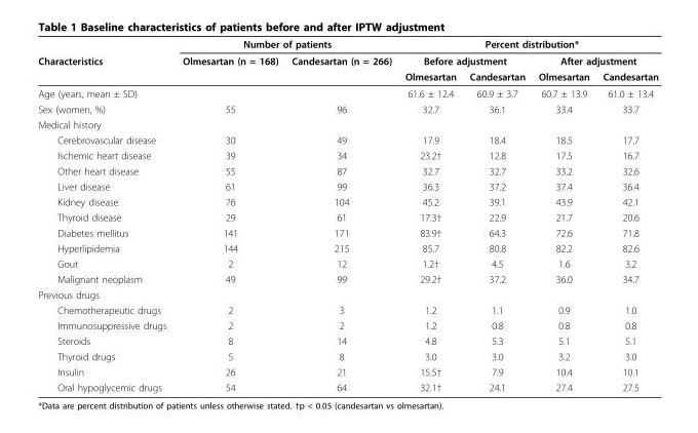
<table><thead><tr><td rowspan="3">Characteristics</td><td colspan="2">Number of patients</td><td colspan="4">Percent distribution*</td></tr><tr><td rowspan="2">Olmesartan (n = 168)</td><td rowspan="2">Candesartan (n = 266)</td><td colspan="2">Before adjustment</td><td colspan="2">After adjustment</td></tr><tr><td>Olmesartan</td><td>Candesartan</td><td>Olmesartan</td><td>Candesartan</td></tr></thead><tbody><tr><td>Age (years, mean ± SD)</td><td></td><td></td><td>61.6 ± 12.4</td><td>60.9 ± 3.7</td><td>60.7 ± 13.9</td><td>61.0 ± 13.4</td></tr><tr><td>Sex (women, %)</td><td>55</td><td>96</td><td>32.7</td><td>36.1</td><td>33.4</td><td>33.7</td></tr><tr><td colspan="7">Medical history</td></tr><tr><td>Cerebrovascular disease</td><td>30</td><td>49</td><td>17.9</td><td>18.4</td><td>18.5</td><td>17.7</td></tr><tr><td>Ischemic heart disease</td><td>39</td><td>34</td><td>23.2†</td><td>12.8</td><td>17.5</td><td>16.7</td></tr><tr><td>Other heart disease</td><td>55</td><td>87</td><td>32.7</td><td>32.7</td><td>33.2</td><td>32.6</td></tr><tr><td>Liver disease</td><td>61</td><td>99</td><td>36.3</td><td>37.2</td><td>37.4</td><td>36.4</td></tr><tr><td>Kidney disease</td><td>76</td><td>104</td><td>45.2</td><td>39.1</td><td>43.9</td><td>42.1</td></tr><tr><td>Thyroid disease</td><td>29</td><td>61</td><td>17.3†</td><td>22.9</td><td>21.7</td><td>20.6</td></tr><tr><td>Diabetes mellitus</td><td>141</td><td>171</td><td>83.9†</td><td>64.3</td><td>72.6</td><td>71.8</td></tr><tr><td>Hyperlipidemia</td><td>144</td><td>215</td><td>85.7</td><td>80.8</td><td>82.2</td><td>82.6</td></tr><tr><td>Gout</td><td>2</td><td>12</td><td>1.2†</td><td>4.5</td><td>1.6</td><td>3.2</td></tr><tr><td>Malignant neoplasm</td><td>49</td><td>99</td><td>29.2†</td><td>37.2</td><td>36.0</td><td>34.7</td></tr><tr><td colspan="7">Previous drugs</td></tr><tr><td>Chemotherapeutic drugs</td><td>2</td><td>3</td><td>1.2</td><td>1.1</td><td>0.9</td><td>1.0</td></tr><tr><td>Immunosuppressive drugs</td><td>2</td><td>2</td><td>1.2</td><td>0.8</td><td>0.8</td><td>0.8</td></tr><tr><td>Steroids</td><td>8</td><td>14</td><td>4.8</td><td>5.3</td><td>5.1</td><td>5.1</td></tr><tr><td>Thyroid drugs</td><td>5</td><td>8</td><td>3.0</td><td>3.0</td><td>3.2</td><td>3.0</td></tr><tr><td>Insulin</td><td>26</td><td>21</td><td>15.5†</td><td>7.9</td><td>10.4</td><td>10.1</td></tr><tr><td>Oral hypoglycemic drugs</td><td>54</td><td>64</td><td>32.1†</td><td>24.1</td><td>27.4</td><td>27.5</td></tr></tbody></table>